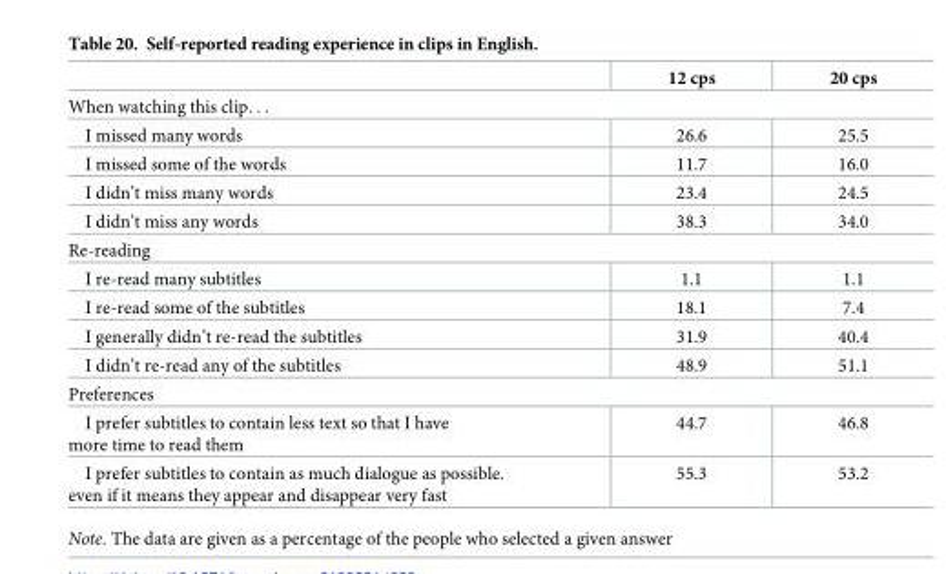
<table><thead><tr><td></td><td>12 cps</td><td>20 cps</td></tr></thead><tbody><tr><td colspan="3">When watching this clip. . .</td></tr><tr><td>I missed many words</td><td>26.6</td><td>25.5</td></tr><tr><td>I missed some of the words</td><td>11.7</td><td>16.0</td></tr><tr><td>I didn’t miss many words</td><td>23.4</td><td>24.5</td></tr><tr><td>I didn’t miss any words</td><td>38.3</td><td>34.0</td></tr><tr><td colspan="3">Re-reading</td></tr><tr><td>I re-read many subtitles</td><td>1.1</td><td>1.1</td></tr><tr><td>I re-read some of the subtitles</td><td>18.1</td><td>7.4</td></tr><tr><td>I generally didn’t re-read the subtitles</td><td>31.9</td><td>40.4</td></tr><tr><td>I didn’t re-read any of the subtitles</td><td>48.9</td><td>51.1</td></tr><tr><td colspan="3">Preferences</td></tr><tr><td>I prefer subtitles to contain less text so that I have more time to read them</td><td>44.7</td><td>46.8</td></tr><tr><td>I prefer subtitles to contain as much dialogue as possible. even if it means they appear and disappear very fast</td><td>55.3</td><td>53.2</td></tr></tbody></table>